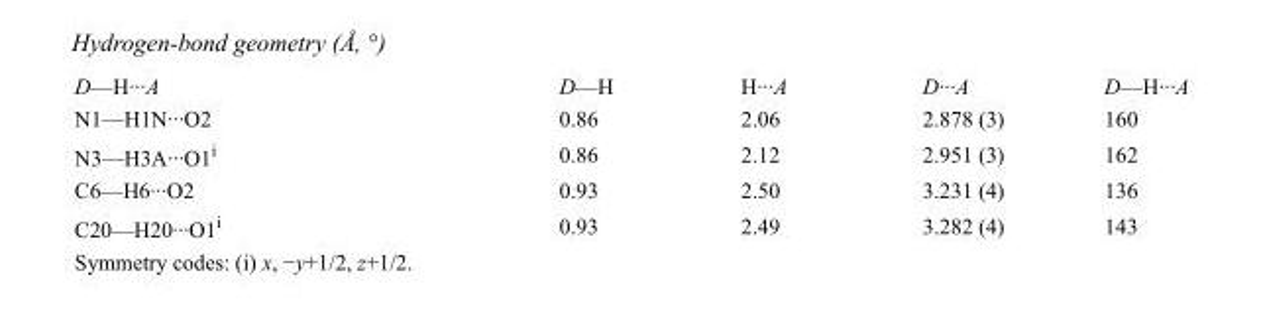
<table><tbody><tr><td>D—H···A</td><td>D—H</td><td>H···A</td><td>D···A</td><td>D—H···A</td></tr><tr><td>N1—H1N···O2</td><td>0.86</td><td>2.06</td><td>2.878 (3)</td><td>160</td></tr><tr><td>N3—H3A···O1<sup>i</sup></td><td>0.86</td><td>2.12</td><td>2.951 (3)</td><td>162</td></tr><tr><td>C6—H6···O2</td><td>0.93</td><td>2.50</td><td>3.231 (4)</td><td>136</td></tr><tr><td>C20—H20···O1<sup>i</sup></td><td>0.93</td><td>2.49</td><td>3.282 (4)</td><td>143</td></tr></tbody></table>